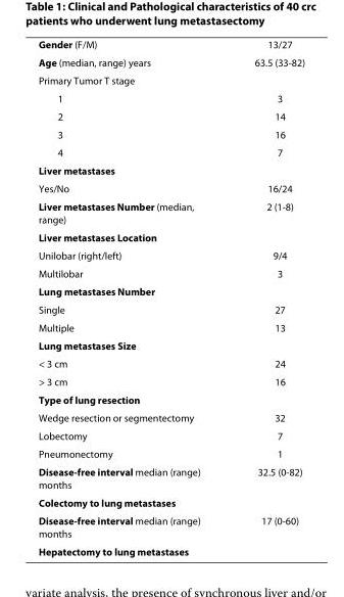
<table><tbody><tr><td>Gender (F/M)</td><td>13/27</td></tr><tr><td>Age (median, range) years</td><td>63.5 (33-82)</td></tr><tr><td colspan="2">Primary Tumor T stage</td></tr><tr><td>1</td><td>3</td></tr><tr><td>2</td><td>14</td></tr><tr><td>3</td><td>16</td></tr><tr><td>4</td><td>7</td></tr><tr><td colspan="2">Liver metastases</td></tr><tr><td>Yes/No</td><td>16/24</td></tr><tr><td>Liver metastases Number (median, range)</td><td>2 (1-8)</td></tr><tr><td colspan="2">Liver metastases Location</td></tr><tr><td>Unilobar (right/left)</td><td>9/4</td></tr><tr><td>Multilobar</td><td>3</td></tr><tr><td colspan="2">Lung metastases Number</td></tr><tr><td>Single</td><td>27</td></tr><tr><td>Multiple</td><td>13</td></tr><tr><td colspan="2">Lung metastases Size</td></tr><tr><td>&lt; 3 cm</td><td>24</td></tr><tr><td>&gt; 3 cm</td><td>16</td></tr><tr><td colspan="2">Type of lung resection</td></tr><tr><td>Wedge resection or segmentectomy</td><td>32</td></tr><tr><td>Lobectomy</td><td>7</td></tr><tr><td>Pneumonectomy</td><td>1</td></tr><tr><td>Disease-free interval median (range) months</td><td>32.5 (0-82)</td></tr><tr><td colspan="2">Colectomy to lung metastases</td></tr><tr><td>Disease-free interval median (range) months</td><td>17 (0-60)</td></tr><tr><td>Hepatectomy to lung metastases</td><td></td></tr></tbody></table>